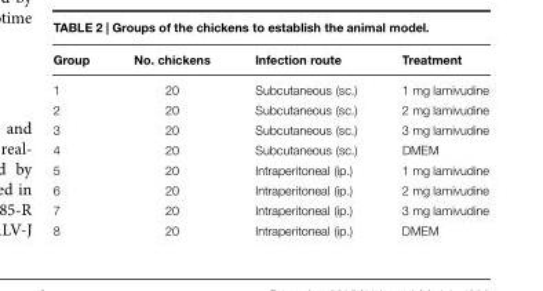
<table><thead><tr><td>Group</td><td>No. chickens</td><td>Infection route</td><td>Treatment</td></tr></thead><tbody><tr><td>1</td><td>20</td><td>Subcutaneous (sc.)</td><td>1 mg lamivudine</td></tr><tr><td>2</td><td>20</td><td>Subcutaneous (sc.)</td><td>2 mg lamivudine</td></tr><tr><td>3</td><td>20</td><td>Subcutaneous (sc.)</td><td>3 mg lamivudine</td></tr><tr><td>4</td><td>20</td><td>Subcutaneous (sc.)</td><td>DMEM</td></tr><tr><td>5</td><td>20</td><td>Intraperitoneal (ip.)</td><td>1 mg lamivudine</td></tr><tr><td>6</td><td>20</td><td>Intraperitoneal (ip.)</td><td>2 mg lamivudine</td></tr><tr><td>7</td><td>20</td><td>Intraperitoneal (ip.)</td><td>3 mg lamivudine</td></tr><tr><td>8</td><td>20</td><td>Intraperitoneal (ip.)</td><td>DMEM</td></tr></tbody></table>